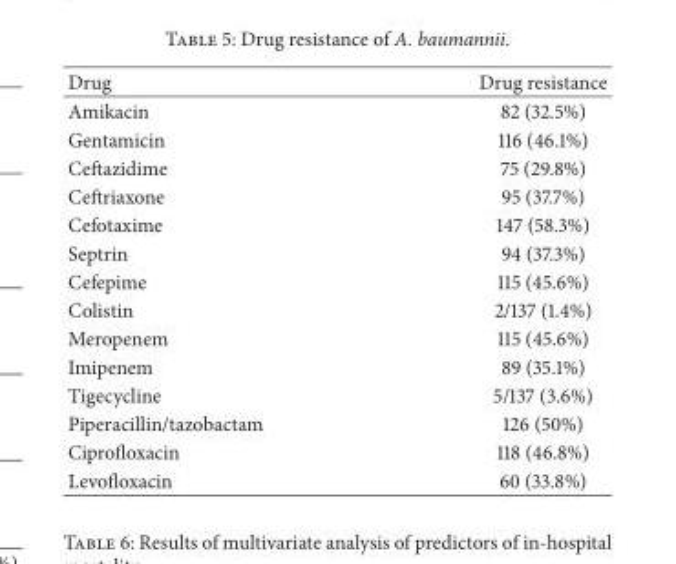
<table><thead><tr><td>Drug</td><td>Drug resistance</td></tr></thead><tbody><tr><td>Amikacin</td><td>82 (32.5%)</td></tr><tr><td>Gentamicin</td><td>116 (46.1%)</td></tr><tr><td>Ceftazidime</td><td>75 (29.8%)</td></tr><tr><td>Ceftriaxone</td><td>95 (37.7%)</td></tr><tr><td>Cefotaxime</td><td>147 (58.3%)</td></tr><tr><td>Septrin</td><td>94 (37.3%)</td></tr><tr><td>Cefepime</td><td>115 (45.6%)</td></tr><tr><td>Colistin</td><td>2/137 (1.4%)</td></tr><tr><td>Meropenem</td><td>115 (45.6%)</td></tr><tr><td>Imipenem</td><td>89 (35.1%)</td></tr><tr><td>Tigecycline</td><td>5/137 (3.6%)</td></tr><tr><td>Piperacillin/tazobactam</td><td>126 (50%)</td></tr><tr><td>Ciprofloxacin</td><td>118 (46.8%)</td></tr><tr><td>Levofloxacin</td><td>60 (33.8%)</td></tr></tbody></table>